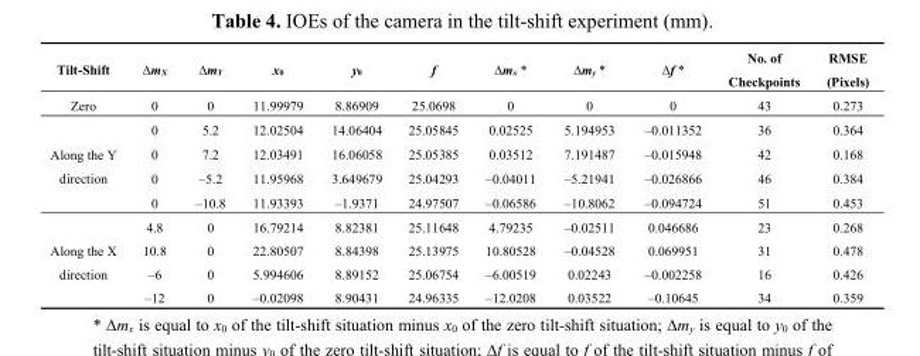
<table><thead><tr><td>Tilt-Shift</td><td>∆m<sub>X</sub></td><td>∆m<sub>Y</sub></td><td>x<sub>0</sub></td><td>y<sub>0</sub></td><td>f</td><td>∆m<sub>x</sub> *</td><td>∆m<sub>y</sub> *</td><td>∆f *</td><td>No. of Checkpoints</td><td>RMSE (Pixels)</td></tr></thead><tbody><tr><td>Zero</td><td>0</td><td>0</td><td>11.99979</td><td>8.86909</td><td>25.0698</td><td>0</td><td>0</td><td>0</td><td>43</td><td>0.273</td></tr><tr><td rowspan="4">Along the Y direction</td><td>0</td><td>5.2</td><td>12.02504</td><td>14.06404</td><td>25.05845</td><td>0.02525</td><td>5.194953</td><td>–0.011352</td><td>36</td><td>0.364</td></tr><tr><td>0</td><td>7.2</td><td>12.03491</td><td>16.06058</td><td>25.05385</td><td>0.03512</td><td>7.191487</td><td>–0.015948</td><td>42</td><td>0.168</td></tr><tr><td>0</td><td>–5.2</td><td>11.95968</td><td>3.649679</td><td>25.04293</td><td>–0.04011</td><td>–5.21941</td><td>–0.026866</td><td>46</td><td>0.384</td></tr><tr><td>0</td><td>–10.8</td><td>11.93393</td><td>–1.9371</td><td>24.97507</td><td>–0.06586</td><td>–10.8062</td><td>–0.094724</td><td>51</td><td>0.453</td></tr><tr><td rowspan="4">Along the X direction</td><td>4.8</td><td>0</td><td>16.79214</td><td>8.82381</td><td>25.11648</td><td>4.79235</td><td>–0.02511</td><td>0.046686</td><td>23</td><td>0.268</td></tr><tr><td>10.8</td><td>0</td><td>22.80507</td><td>8.84398</td><td>25.13975</td><td>10.80528</td><td>–0.04528</td><td>0.069951</td><td>31</td><td>0.478</td></tr><tr><td>–6</td><td>0</td><td>5.994606</td><td>8.89152</td><td>25.06754</td><td>–6.00519</td><td>0.02243</td><td>–0.002258</td><td>16</td><td>0.426</td></tr><tr><td>–12</td><td>0</td><td>–0.02098</td><td>8.90431</td><td>24.96335</td><td>–12.0208</td><td>0.03522</td><td>–0.10645</td><td>34</td><td>0.359</td></tr></tbody></table>